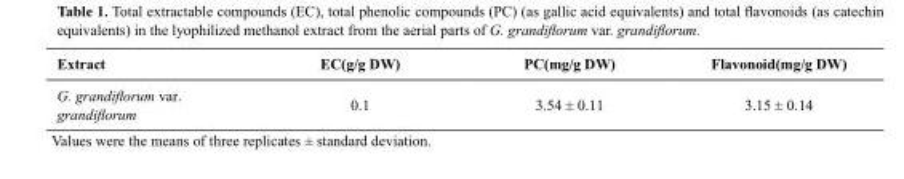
<table><thead><tr><td>Extract</td><td>EC(g/g DW)</td><td>PC(mg/g DW)</td><td>Flavonoid(mg/g DW)</td></tr></thead><tbody><tr><td>G. grandiflorum var. grandiflorum</td><td>0.1</td><td>3.54 ± 0.11</td><td>3.15 ± 0.14</td></tr></tbody></table>